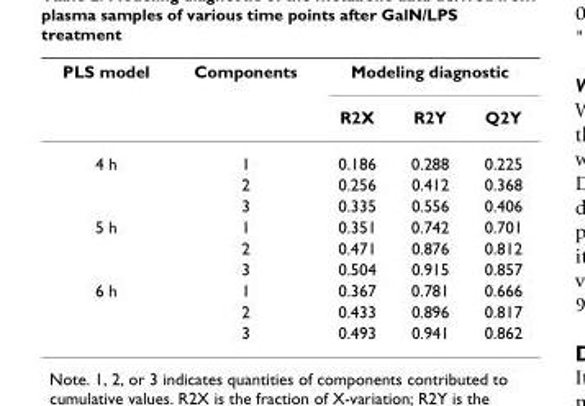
<table><thead><tr><td rowspan="2">PLS model</td><td rowspan="2">Components</td><td colspan="3">Modeling diagnostic</td></tr><tr><td>R2X</td><td>R2Y</td><td>Q2Y</td></tr></thead><tbody><tr><td rowspan="3">4 h</td><td>1</td><td>0.186</td><td>0.288</td><td>0.225</td></tr><tr><td>2</td><td>0.256</td><td>0.412</td><td>0.368</td></tr><tr><td>3</td><td>0.335</td><td>0.556</td><td>0.406</td></tr><tr><td rowspan="3">5 h</td><td>1</td><td>0.351</td><td>0.742</td><td>0.701</td></tr><tr><td>2</td><td>0.471</td><td>0.876</td><td>0.812</td></tr><tr><td>3</td><td>0.504</td><td>0.915</td><td>0.857</td></tr><tr><td rowspan="3">6 h</td><td>1</td><td>0.367</td><td>0.781</td><td>0.666</td></tr><tr><td>2</td><td>0.433</td><td>0.896</td><td>0.817</td></tr><tr><td>3</td><td>0.493</td><td>0.941</td><td>0.862</td></tr></tbody></table>